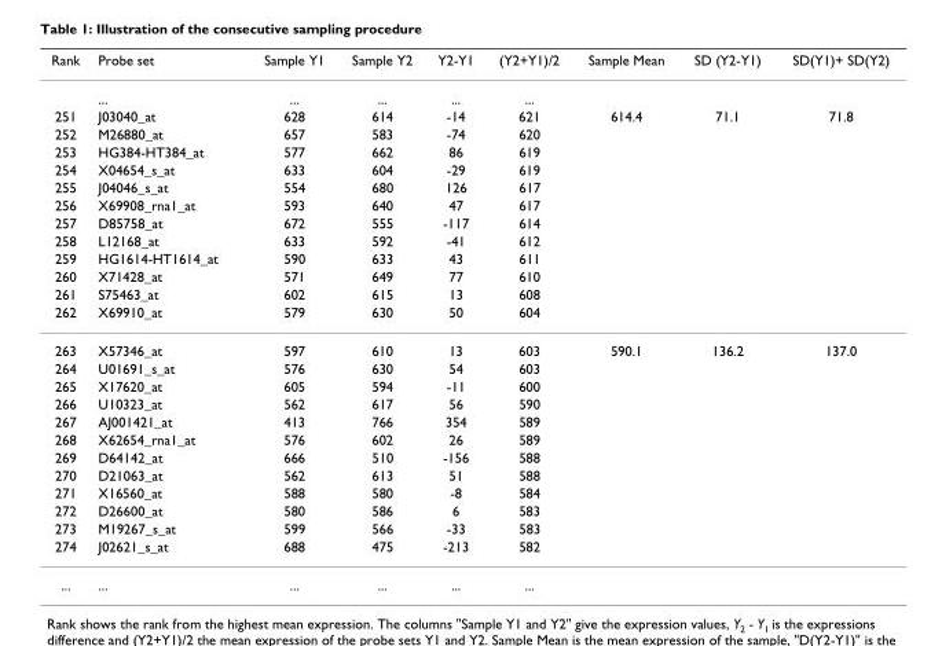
<table><thead><tr><td>Rank</td><td>Probe set</td><td>Sample Y1</td><td>Sample Y2</td><td>Y2-Y1</td><td>(Y2+Y1)/2</td><td>Sample Mean</td><td>SD (Y2-Y1)</td><td>SD(Y1)+ SD(Y2)</td></tr></thead><tbody><tr><td></td><td>...</td><td>...</td><td>...</td><td>...</td><td>...</td><td></td><td></td><td></td></tr><tr><td>251</td><td>J03040_at</td><td>628</td><td>614</td><td>-14</td><td>621</td><td>614.4</td><td>71.1</td><td>71.8</td></tr><tr><td>252</td><td>M26880_at</td><td>657</td><td>583</td><td>-74</td><td>620</td><td></td><td></td><td></td></tr><tr><td>253</td><td>HG384-HT384_at</td><td>577</td><td>662</td><td>86</td><td>619</td><td></td><td></td><td></td></tr><tr><td>254</td><td>X04654_s_at</td><td>633</td><td>604</td><td>-29</td><td>619</td><td></td><td></td><td></td></tr><tr><td>255</td><td>J04046_s_at</td><td>554</td><td>680</td><td>126</td><td>617</td><td></td><td></td><td></td></tr><tr><td>256</td><td>X69908_rna1_at</td><td>593</td><td>640</td><td>47</td><td>617</td><td></td><td></td><td></td></tr><tr><td>257</td><td>D85758_at</td><td>672</td><td>555</td><td>-117</td><td>614</td><td></td><td></td><td></td></tr><tr><td>258</td><td>L12168_at</td><td>633</td><td>592</td><td>-41</td><td>612</td><td></td><td></td><td></td></tr><tr><td>259</td><td>HG1614-HT1614_at</td><td>590</td><td>633</td><td>43</td><td>611</td><td></td><td></td><td></td></tr><tr><td>260</td><td>X71428_at</td><td>571</td><td>649</td><td>77</td><td>610</td><td></td><td></td><td></td></tr><tr><td>261</td><td>S75463_at</td><td>602</td><td>615</td><td>13</td><td>608</td><td></td><td></td><td></td></tr><tr><td>262</td><td>X69910_at</td><td>579</td><td>630</td><td>50</td><td>604</td><td></td><td></td><td></td></tr><tr><td>263</td><td>X57346_at</td><td>597</td><td>610</td><td>13</td><td>603</td><td>590.1</td><td>136.2</td><td>137.0</td></tr><tr><td>264</td><td>U01691_s_at</td><td>576</td><td>630</td><td>54</td><td>603</td><td></td><td></td><td></td></tr><tr><td>265</td><td>X17620_at</td><td>605</td><td>594</td><td>-11</td><td>600</td><td></td><td></td><td></td></tr><tr><td>266</td><td>U10323_at</td><td>562</td><td>617</td><td>56</td><td>590</td><td></td><td></td><td></td></tr><tr><td>267</td><td>AJ001421_at</td><td>413</td><td>766</td><td>354</td><td>589</td><td></td><td></td><td></td></tr><tr><td>268</td><td>X62654_rna1_at</td><td>576</td><td>602</td><td>26</td><td>589</td><td></td><td></td><td></td></tr><tr><td>269</td><td>D64142_at</td><td>666</td><td>510</td><td>-156</td><td>588</td><td></td><td></td><td></td></tr><tr><td>270</td><td>D21063_at</td><td>562</td><td>613</td><td>51</td><td>588</td><td></td><td></td><td></td></tr><tr><td>271</td><td>X16560_at</td><td>588</td><td>580</td><td>-8</td><td>584</td><td></td><td></td><td></td></tr><tr><td>272</td><td>D26600_at</td><td>580</td><td>586</td><td>6</td><td>583</td><td></td><td></td><td></td></tr><tr><td>273</td><td>M19267_s_at</td><td>599</td><td>566</td><td>-33</td><td>583</td><td></td><td></td><td></td></tr><tr><td>274</td><td>J02621_s_at</td><td>688</td><td>475</td><td>-213</td><td>582</td><td></td><td></td><td></td></tr><tr><td>...</td><td>...</td><td>...</td><td>...</td><td>...</td><td>...</td><td></td><td></td><td></td></tr></tbody></table>